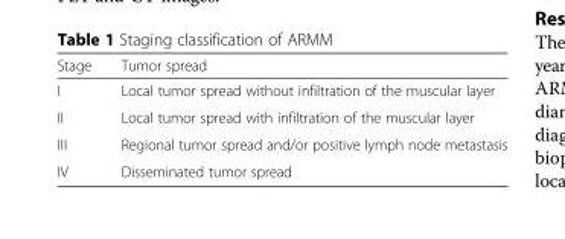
<table><thead><tr><td>Stage</td><td>Tumor spread</td></tr></thead><tbody><tr><td>I</td><td>Local tumor spread without infiltration of the muscular layer</td></tr><tr><td>II</td><td>Local tumor spread with infiltration of the muscular layer</td></tr><tr><td>III</td><td>Regional tumor spread and/or positive lymph node metastasis</td></tr><tr><td>IV</td><td>Disseminated tumor spread</td></tr></tbody></table>